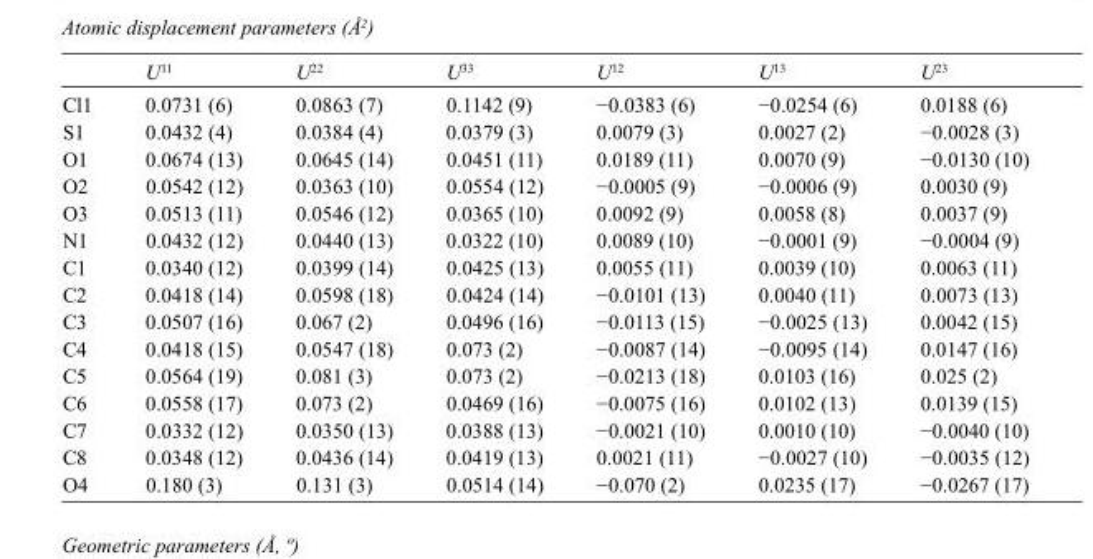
<table><thead><tr><td></td><td>U<sup>11</sup></td><td>U<sup>22</sup></td><td>U<sup>33</sup></td><td>U<sup>12</sup></td><td>U<sup>13</sup></td><td>U<sup>23</sup></td></tr></thead><tbody><tr><td>Cl1</td><td>0.0731 (6)</td><td>0.0863 (7)</td><td>0.1142 (9)</td><td>−0.0383 (6)</td><td>−0.0254 (6)</td><td>0.0188 (6)</td></tr><tr><td>S1</td><td>0.0432 (4)</td><td>0.0384 (4)</td><td>0.0379 (3)</td><td>0.0079 (3)</td><td>0.0027 (2)</td><td>−0.0028 (3)</td></tr><tr><td>O1</td><td>0.0674 (13)</td><td>0.0645 (14)</td><td>0.0451 (11)</td><td>0.0189 (11)</td><td>0.0070 (9)</td><td>−0.0130 (10)</td></tr><tr><td>O2</td><td>0.0542 (12)</td><td>0.0363 (10)</td><td>0.0554 (12)</td><td>−0.0005 (9)</td><td>−0.0006 (9)</td><td>0.0030 (9)</td></tr><tr><td>O3</td><td>0.0513 (11)</td><td>0.0546 (12)</td><td>0.0365 (10)</td><td>0.0092 (9)</td><td>0.0058 (8)</td><td>0.0037 (9)</td></tr><tr><td>N1</td><td>0.0432 (12)</td><td>0.0440 (13)</td><td>0.0322 (10)</td><td>0.0089 (10)</td><td>−0.0001 (9)</td><td>−0.0004 (9)</td></tr><tr><td>C1</td><td>0.0340 (12)</td><td>0.0399 (14)</td><td>0.0425 (13)</td><td>0.0055 (11)</td><td>0.0039 (10)</td><td>0.0063 (11)</td></tr><tr><td>C2</td><td>0.0418 (14)</td><td>0.0598 (18)</td><td>0.0424 (14)</td><td>−0.0101 (13)</td><td>0.0040 (11)</td><td>0.0073 (13)</td></tr><tr><td>C3</td><td>0.0507 (16)</td><td>0.067 (2)</td><td>0.0496 (16)</td><td>−0.0113 (15)</td><td>−0.0025 (13)</td><td>0.0042 (15)</td></tr><tr><td>C4</td><td>0.0418 (15)</td><td>0.0547 (18)</td><td>0.073 (2)</td><td>−0.0087 (14)</td><td>−0.0095 (14)</td><td>0.0147 (16)</td></tr><tr><td>C5</td><td>0.0564 (19)</td><td>0.081 (3)</td><td>0.073 (2)</td><td>−0.0213 (18)</td><td>0.0103 (16)</td><td>0.025 (2)</td></tr><tr><td>C6</td><td>0.0558 (17)</td><td>0.073 (2)</td><td>0.0469 (16)</td><td>−0.0075 (16)</td><td>0.0102 (13)</td><td>0.0139 (15)</td></tr><tr><td>C7</td><td>0.0332 (12)</td><td>0.0350 (13)</td><td>0.0388 (13)</td><td>−0.0021 (10)</td><td>0.0010 (10)</td><td>−0.0040 (10)</td></tr><tr><td>C8</td><td>0.0348 (12)</td><td>0.0436 (14)</td><td>0.0419 (13)</td><td>0.0021 (11)</td><td>−0.0027 (10)</td><td>−0.0035 (12)</td></tr><tr><td>O4</td><td>0.180 (3)</td><td>0.131 (3)</td><td>0.0514 (14)</td><td>−0.070 (2)</td><td>0.0235 (17)</td><td>−0.0267 (17)</td></tr></tbody></table>